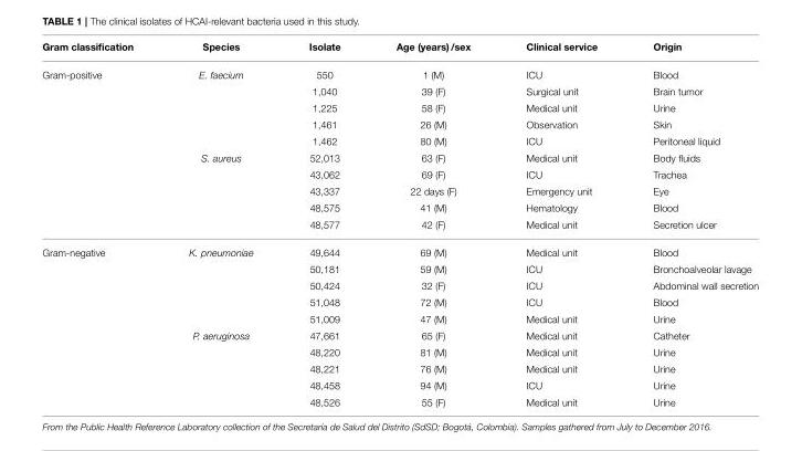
<table><thead><tr><td>Gram classification</td><td>Species</td><td>Isolate</td><td>Age (years) /sex</td><td>Clinical service</td><td>Origin</td></tr></thead><tbody><tr><td rowspan="10">Gram-positive</td><td>E. faecium</td><td>550</td><td>1 (M)</td><td>ICU</td><td>Blood</td></tr><tr><td></td><td>1,040</td><td>39 (F)</td><td>Surgical unit</td><td>Brain tumor</td></tr><tr><td></td><td>1,225</td><td>58 (F)</td><td>Medical unit</td><td>Urine</td></tr><tr><td></td><td>1,461</td><td>26 (M)</td><td>Observation</td><td>Skin</td></tr><tr><td></td><td>1,462</td><td>80 (M)</td><td>ICU</td><td>Peritoneal liquid</td></tr><tr><td>S. aureus</td><td>52,013</td><td>63 (F)</td><td>Medical unit</td><td>Body fluids</td></tr><tr><td></td><td>43,062</td><td>69 (F)</td><td>ICU</td><td>Trachea</td></tr><tr><td></td><td>43,337</td><td>22 days (F)</td><td>Emergency unit</td><td>Eye</td></tr><tr><td></td><td>48,575</td><td>41 (M)</td><td>Hematology</td><td>Blood</td></tr><tr><td></td><td>48,577</td><td>42 (F)</td><td>Medical unit</td><td>Secretion ulcer</td></tr><tr><td rowspan="10">Gram-negative</td><td>K. pneumoniae</td><td>49,644</td><td>69 (M)</td><td>Medical unit</td><td>Blood</td></tr><tr><td></td><td>50,181</td><td>59 (M)</td><td>ICU</td><td>Bronchoalveolar lavage</td></tr><tr><td></td><td>50,424</td><td>32 (F)</td><td>ICU</td><td>Abdominal wall secretion</td></tr><tr><td></td><td>51,048</td><td>72 (M)</td><td>ICU</td><td>Blood</td></tr><tr><td></td><td>51,009</td><td>47 (M)</td><td>Medical unit</td><td>Urine</td></tr><tr><td>P. aeruginosa</td><td>47,661</td><td>65 (F)</td><td>Medical unit</td><td>Catheter</td></tr><tr><td></td><td>48,220</td><td>81 (M)</td><td>Medical unit</td><td>Urine</td></tr><tr><td></td><td>48,221</td><td>76 (M)</td><td>Medical unit</td><td>Urine</td></tr><tr><td></td><td>48,458</td><td>94 (M)</td><td>ICU</td><td>Urine</td></tr><tr><td></td><td>48,526</td><td>55 (F)</td><td>Medical unit</td><td>Urine</td></tr></tbody></table>